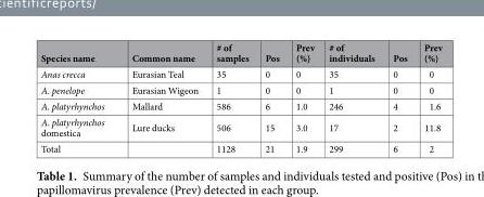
<table><thead><tr><td>Species name</td><td>Common name</td><td># of samples</td><td>Pos</td><td>Prev (%)</td><td># of individuals</td><td>Pos</td><td>Prev (%)</td></tr></thead><tbody><tr><td>Anas crecca</td><td>Eurasian Teal</td><td>35</td><td>0</td><td>0</td><td>35</td><td>0</td><td>0</td></tr><tr><td>A. penelope</td><td>Eurasian Wigeon</td><td>1</td><td>0</td><td>0</td><td>1</td><td>0</td><td>0</td></tr><tr><td>A. platyrhynchos</td><td>Mallard</td><td>586</td><td>6</td><td>1.0</td><td>246</td><td>4</td><td>1.6</td></tr><tr><td>A. platyrhynchos domestica</td><td>Lure ducks</td><td>506</td><td>15</td><td>3.0</td><td>17</td><td>2</td><td>11.8</td></tr><tr><td>Total</td><td></td><td>1128</td><td>21</td><td>1.9</td><td>299</td><td>6</td><td>2</td></tr></tbody></table>